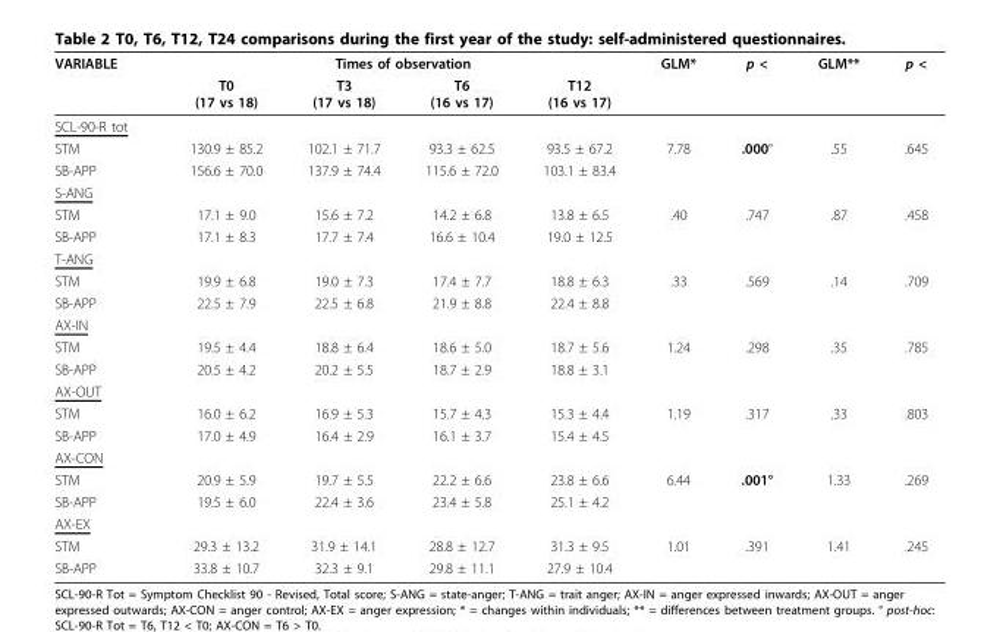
<table><thead><tr><td rowspan="2">VARIABLE</td><td colspan="4">Times of observation</td><td rowspan="2">GLM*</td><td rowspan="2">p &lt;</td><td rowspan="2">GLM**</td><td rowspan="2">p &lt;</td></tr><tr><td>T0 (17 vs 18)</td><td>T3 (17 vs 18)</td><td>T6 (16 vs 17)</td><td>T12 (16 vs 17)</td></tr></thead><tbody><tr><td colspan="9">SCL-90-R tot</td></tr><tr><td>STM</td><td>130.9 ± 85.2</td><td>102.1 ± 71.7</td><td>93.3 ± 62.5</td><td>93.5 ± 67.2</td><td>7.78</td><td>.000°</td><td>.55</td><td>.645</td></tr><tr><td>SB-APP</td><td>156.6 ± 70.0</td><td>137.9 ± 74.4</td><td>115.6 ± 72.0</td><td>103.1 ± 83.4</td><td></td><td></td><td></td><td></td></tr><tr><td colspan="9">S-ANG</td></tr><tr><td>STM</td><td>17.1 ± 9.0</td><td>15.6 ± 7.2</td><td>14.2 ± 6.8</td><td>13.8 ± 6.5</td><td>.40</td><td>.747</td><td>.87</td><td>.458</td></tr><tr><td>SB-APP</td><td>17.1 ± 8.3</td><td>17.7 ± 7.4</td><td>16.6 ± 10.4</td><td>19.0 ± 12.5</td><td></td><td></td><td></td><td></td></tr><tr><td colspan="9">T-ANG</td></tr><tr><td>STM</td><td>19.9 ± 6.8</td><td>19.0 ± 7.3</td><td>17.4 ± 7.7</td><td>18.8 ± 6.3</td><td>.33</td><td>.569</td><td>.14</td><td>.709</td></tr><tr><td>SB-APP</td><td>22.5 ± 7.9</td><td>22.5 ± 6.8</td><td>21.9 ± 8.8</td><td>22.4 ± 8.8</td><td></td><td></td><td></td><td></td></tr><tr><td colspan="9">AX-IN</td></tr><tr><td>STM</td><td>19.5 ± 4.4</td><td>18.8 ± 6.4</td><td>18.6 ± 5.0</td><td>18.7 ± 5.6</td><td>1.24</td><td>.298</td><td>.35</td><td>.785</td></tr><tr><td>SB-APP</td><td>20.5 ± 4.2</td><td>20.2 ± 5.5</td><td>18.7 ± 2.9</td><td>18.8 ± 3.1</td><td></td><td></td><td></td><td></td></tr><tr><td colspan="9">AX-OUT</td></tr><tr><td>STM</td><td>16.0 ± 6.2</td><td>16.9 ± 5.3</td><td>15.7 ± 4.3</td><td>15.3 ± 4.4</td><td>1.19</td><td>.317</td><td>.33</td><td>.803</td></tr><tr><td>SB-APP</td><td>17.0 ± 4.9</td><td>16.4 ± 2.9</td><td>16.1 ± 3.7</td><td>15.4 ± 4.5</td><td></td><td></td><td></td><td></td></tr><tr><td colspan="9">AX-CON</td></tr><tr><td>STM</td><td>20.9 ± 5.9</td><td>19.7 ± 5.5</td><td>22.2 ± 6.6</td><td>23.8 ± 6.6</td><td>6.44</td><td>.001°</td><td>1.33</td><td>.269</td></tr><tr><td>SB-APP</td><td>19.5 ± 6.0</td><td>22.4 ± 3.6</td><td>23.4 ± 5.8</td><td>25.1 ± 4.2</td><td></td><td></td><td></td><td></td></tr><tr><td colspan="9">AX-EX</td></tr><tr><td>STM</td><td>29.3 ± 13.2</td><td>31.9 ± 14.1</td><td>28.8 ± 12.7</td><td>31.3 ± 9.5</td><td>1.01</td><td>.391</td><td>1.41</td><td>.245</td></tr><tr><td>SB-APP</td><td>33.8 ± 10.7</td><td>32.3 ± 9.1</td><td>29.8 ± 11.1</td><td>27.9 ± 10.4</td><td></td><td></td><td></td><td></td></tr></tbody></table>